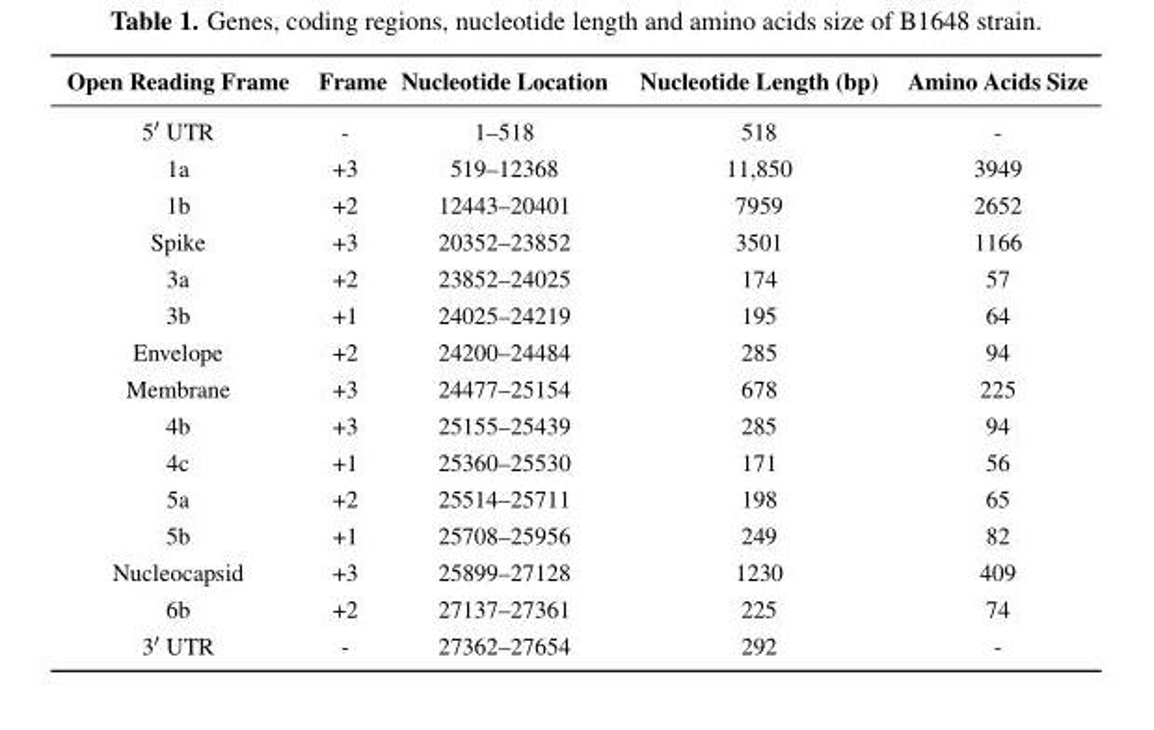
<table><thead><tr><td>Open Reading Frame</td><td>Frame</td><td>Nucleotide Location</td><td>Nucleotide Length (bp)</td><td>Amino Acids Size</td></tr></thead><tbody><tr><td>5′ UTR</td><td>-</td><td>1–518</td><td>518</td><td>-</td></tr><tr><td>1a</td><td>+3</td><td>519–12368</td><td>11,850</td><td>3949</td></tr><tr><td>1b</td><td>+2</td><td>12443–20401</td><td>7959</td><td>2652</td></tr><tr><td>Spike</td><td>+3</td><td>20352–23852</td><td>3501</td><td>1166</td></tr><tr><td>3a</td><td>+2</td><td>23852–24025</td><td>174</td><td>57</td></tr><tr><td>3b</td><td>+1</td><td>24025–24219</td><td>195</td><td>64</td></tr><tr><td>Envelope</td><td>+2</td><td>24200–24484</td><td>285</td><td>94</td></tr><tr><td>Membrane</td><td>+3</td><td>24477–25154</td><td>678</td><td>225</td></tr><tr><td>4b</td><td>+3</td><td>25155–25439</td><td>285</td><td>94</td></tr><tr><td>4c</td><td>+1</td><td>25360–25530</td><td>171</td><td>56</td></tr><tr><td>5a</td><td>+2</td><td>25514–25711</td><td>198</td><td>65</td></tr><tr><td>5b</td><td>+1</td><td>25708–25956</td><td>249</td><td>82</td></tr><tr><td>Nucleocapsid</td><td>+3</td><td>25899–27128</td><td>1230</td><td>409</td></tr><tr><td>6b</td><td>+2</td><td>27137–27361</td><td>225</td><td>74</td></tr><tr><td>3′ UTR</td><td>-</td><td>27362–27654</td><td>292</td><td>-</td></tr></tbody></table>